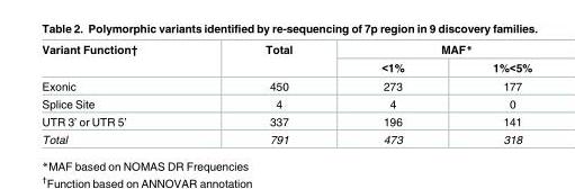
<table><thead><tr><td rowspan="2">Variant Function†</td><td rowspan="2">Total</td><td colspan="2">MAF*</td></tr><tr><td>&lt;1%</td><td>1%&lt;5%</td></tr></thead><tbody><tr><td>Exonic</td><td>450</td><td>273</td><td>177</td></tr><tr><td>Splice Site</td><td>4</td><td>4</td><td>0</td></tr><tr><td>UTR 3’ or UTR 5’</td><td>337</td><td>196</td><td>141</td></tr><tr><td>Total</td><td>791</td><td>473</td><td>318</td></tr></tbody></table>